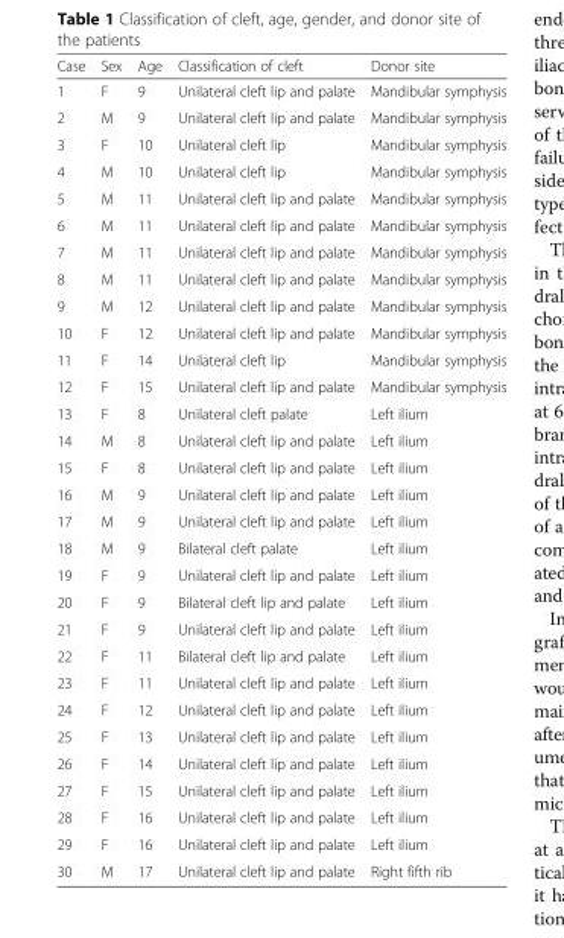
<table><thead><tr><td>Case</td><td>Sex</td><td>Age</td><td>Classification of cleft</td><td>Donor site</td></tr></thead><tbody><tr><td>1</td><td>F</td><td>9</td><td>Unilateral cleft lip and palate</td><td>Mandibular symphysis</td></tr><tr><td>2</td><td>M</td><td>9</td><td>Unilateral cleft lip and palate</td><td>Mandibular symphysis</td></tr><tr><td>3</td><td>F</td><td>10</td><td>Unilateral cleft lip</td><td>Mandibular symphysis</td></tr><tr><td>4</td><td>M</td><td>10</td><td>Unilateral cleft lip</td><td>Mandibular symphysis</td></tr><tr><td>5</td><td>M</td><td>11</td><td>Unilateral cleft lip and palate</td><td>Mandibular symphysis</td></tr><tr><td>6</td><td>M</td><td>11</td><td>Unilateral cleft lip and palate</td><td>Mandibular symphysis</td></tr><tr><td>7</td><td>M</td><td>11</td><td>Unilateral cleft lip and palate</td><td>Mandibular symphysis</td></tr><tr><td>8</td><td>M</td><td>11</td><td>Unilateral cleft lip and palate</td><td>Mandibular symphysis</td></tr><tr><td>9</td><td>M</td><td>12</td><td>Unilateral cleft lip and palate</td><td>Mandibular symphysis</td></tr><tr><td>10</td><td>F</td><td>12</td><td>Unilateral cleft lip and palate</td><td>Mandibular symphysis</td></tr><tr><td>11</td><td>F</td><td>14</td><td>Unilateral cleft lip</td><td>Mandibular symphysis</td></tr><tr><td>12</td><td>F</td><td>15</td><td>Unilateral cleft lip and palate</td><td>Mandibular symphysis</td></tr><tr><td>13</td><td>F</td><td>8</td><td>Unilateral cleft palate</td><td>Left ilium</td></tr><tr><td>14</td><td>M</td><td>8</td><td>Unilateral cleft lip and palate</td><td>Left ilium</td></tr><tr><td>15</td><td>F</td><td>8</td><td>Unilateral cleft lip and palate</td><td>Left ilium</td></tr><tr><td>16</td><td>M</td><td>9</td><td>Unilateral cleft lip and palate</td><td>Left ilium</td></tr><tr><td>17</td><td>M</td><td>9</td><td>Unilateral cleft lip and palate</td><td>Left ilium</td></tr><tr><td>18</td><td>M</td><td>9</td><td>Bilateral cleft palate</td><td>Left ilium</td></tr><tr><td>19</td><td>F</td><td>9</td><td>Unilateral cleft lip and palate</td><td>Left ilium</td></tr><tr><td>20</td><td>F</td><td>9</td><td>Bilateral cleft lip and palate</td><td>Left ilium</td></tr><tr><td>21</td><td>F</td><td>9</td><td>Unilateral cleft lip and palate</td><td>Left ilium</td></tr><tr><td>22</td><td>F</td><td>11</td><td>Bilateral cleft lip and palate</td><td>Left ilium</td></tr><tr><td>23</td><td>F</td><td>11</td><td>Unilateral cleft lip and palate</td><td>Left ilium</td></tr><tr><td>24</td><td>F</td><td>12</td><td>Unilateral cleft lip and palate</td><td>Left ilium</td></tr><tr><td>25</td><td>F</td><td>13</td><td>Unilateral cleft lip and palate</td><td>Left ilium</td></tr><tr><td>26</td><td>F</td><td>14</td><td>Unilateral cleft lip and palate</td><td>Left ilium</td></tr><tr><td>27</td><td>F</td><td>15</td><td>Unilateral cleft lip and palate</td><td>Left ilium</td></tr><tr><td>28</td><td>F</td><td>16</td><td>Unilateral cleft lip and palate</td><td>Left ilium</td></tr><tr><td>29</td><td>F</td><td>16</td><td>Unilateral cleft lip and palate</td><td>Left ilium</td></tr><tr><td>30</td><td>M</td><td>17</td><td>Unilateral cleft lip and palate</td><td>Right fifth rib</td></tr></tbody></table>